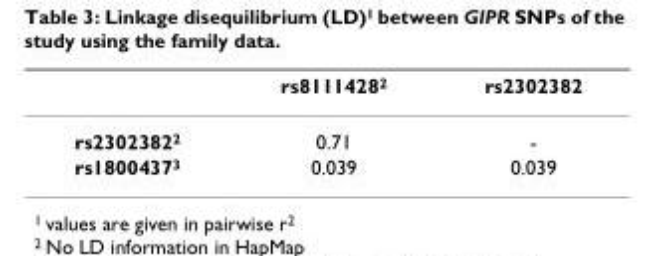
<table><thead><tr><td></td><td>rs8111428<sup>2</sup></td><td>rs2302382</td></tr></thead><tbody><tr><td>rs2302382<sup>2</sup></td><td>0.71</td><td>-</td></tr><tr><td>rs1800437<sup>3</sup></td><td>0.039</td><td>0.039</td></tr></tbody></table>